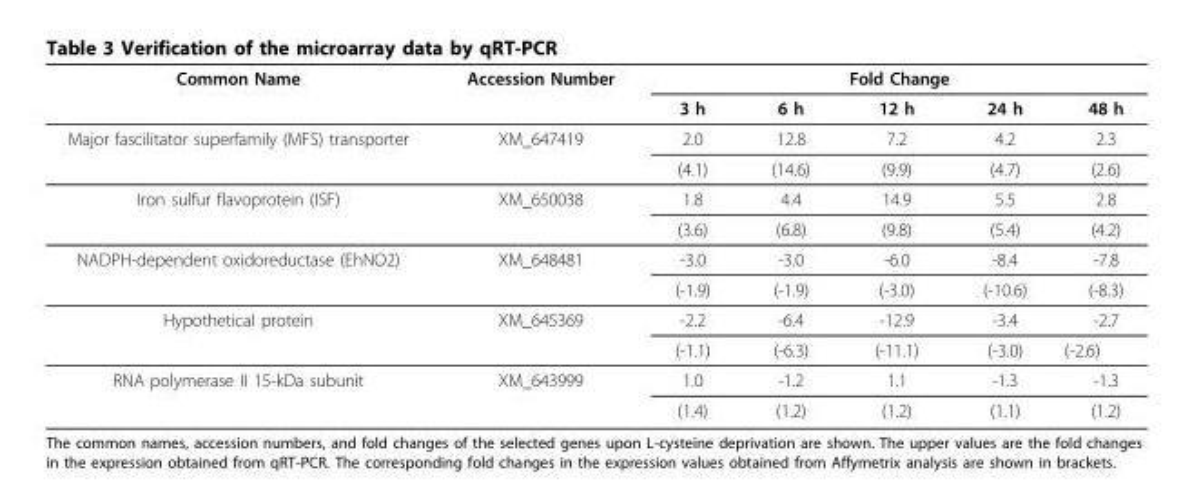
<table><thead><tr><td rowspan="2">Common Name</td><td rowspan="2">Accession Number</td><td colspan="5">Fold Change</td></tr><tr><td>3 h</td><td>6 h</td><td>12 h</td><td>24 h</td><td>48 h</td></tr></thead><tbody><tr><td rowspan="2">Major fascilitator superfamily (MFS) transporter</td><td>XM_647419</td><td>2.0</td><td>12.8</td><td>7.2</td><td>4.2</td><td>2.3</td></tr><tr><td></td><td>(4.1)</td><td>(14.6)</td><td>(9.9)</td><td>(4.7)</td><td>(2.6)</td></tr><tr><td rowspan="2">Iron sulfur flavoprotein (ISF)</td><td>XM_650038</td><td>1.8</td><td>4.4</td><td>14.9</td><td>5.5</td><td>2.8</td></tr><tr><td></td><td>(3.6)</td><td>(6.8)</td><td>(9.8)</td><td>(5.4)</td><td>(4.2)</td></tr><tr><td rowspan="2">NADPH-dependent oxidoreductase (EhNO2)</td><td>XM_648481</td><td>-3.0</td><td>-3.0</td><td>-6.0</td><td>-8.4</td><td>-7.8</td></tr><tr><td></td><td>(-1.9)</td><td>(-1.9)</td><td>(-3.0)</td><td>(-10.6)</td><td>(-8.3)</td></tr><tr><td rowspan="2">Hypothetical protein</td><td>XM_645369</td><td>-2.2</td><td>-6.4</td><td>-12.9</td><td>-3.4</td><td>-2.7</td></tr><tr><td></td><td>(-1.1)</td><td>(-6.3)</td><td>(-11.1)</td><td>(-3.0)</td><td>(-2.6)</td></tr><tr><td rowspan="2">RNA polymerase II 15-kDa subunit</td><td>XM_643999</td><td>1.0</td><td>-1.2</td><td>1.1</td><td>-1.3</td><td>-1.3</td></tr><tr><td></td><td>(1.4)</td><td>(1.2)</td><td>(1.2)</td><td>(1.1)</td><td>(1.2)</td></tr></tbody></table>